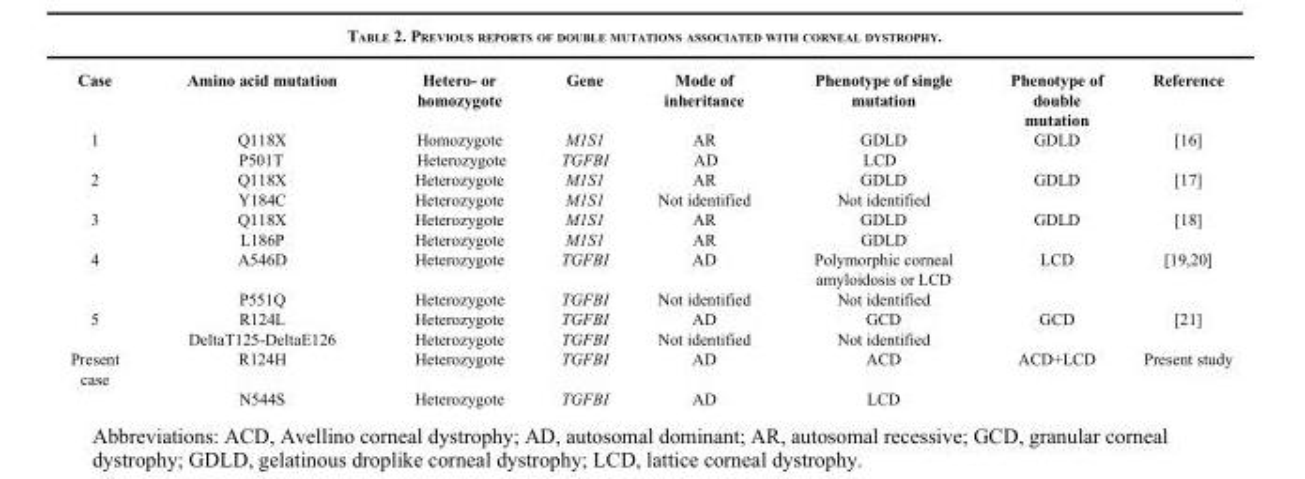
<table><thead><tr><td>Case</td><td>Amino acid mutation</td><td>Hetero- or homozygote</td><td>Gene</td><td>Mode of inheritance</td><td>Phenotype of single mutation</td><td>Phenotype of double mutation</td><td>Reference</td></tr></thead><tbody><tr><td rowspan="2">1</td><td>Q118X</td><td>Homozygote</td><td>M1S1</td><td>AR</td><td>GDLD</td><td rowspan="2">GDLD</td><td rowspan="2">[16]</td></tr><tr><td>P501T</td><td>Heterozygote</td><td>TGFBI</td><td>AD</td><td>LCD</td></tr><tr><td rowspan="2">2</td><td>Q118X</td><td>Heterozygote</td><td>M1S1</td><td>AR</td><td>GDLD</td><td rowspan="2">GDLD</td><td rowspan="2">[17]</td></tr><tr><td>Y184C</td><td>Heterozygote</td><td>M1S1</td><td>Not identified</td><td>Not identified</td></tr><tr><td rowspan="2">3</td><td>Q118X</td><td>Heterozygote</td><td>M1S1</td><td>AR</td><td>GDLD</td><td rowspan="2">GDLD</td><td rowspan="2">[18]</td></tr><tr><td>L186P</td><td>Heterozygote</td><td>M1S1</td><td>AR</td><td>GDLD</td></tr><tr><td rowspan="2">4</td><td>A546D</td><td>Heterozygote</td><td>TGFBI</td><td>AD</td><td>Polymorphic corneal amyloidosis or LCD</td><td rowspan="2">LCD</td><td rowspan="2">[19,20]</td></tr><tr><td>P551Q</td><td>Heterozygote</td><td>TGFBI</td><td>Not identified</td><td>Not identified</td></tr><tr><td rowspan="2">5</td><td>R124L</td><td>Heterozygote</td><td>TGFBI</td><td>AD</td><td>GCD</td><td rowspan="2">GCD</td><td rowspan="2">[21]</td></tr><tr><td>DeltaT125-DeltaE126</td><td>Heterozygote</td><td>TGFBI</td><td>Not identified</td><td>Not identified</td></tr><tr><td rowspan="2">Present case</td><td>R124H</td><td>Heterozygote</td><td>TGFBI</td><td>AD</td><td>ACD</td><td rowspan="2">ACD+LCD</td><td rowspan="2">Present study</td></tr><tr><td>N544S</td><td>Heterozygote</td><td>TGFBI</td><td>AD</td><td>LCD</td></tr></tbody></table>